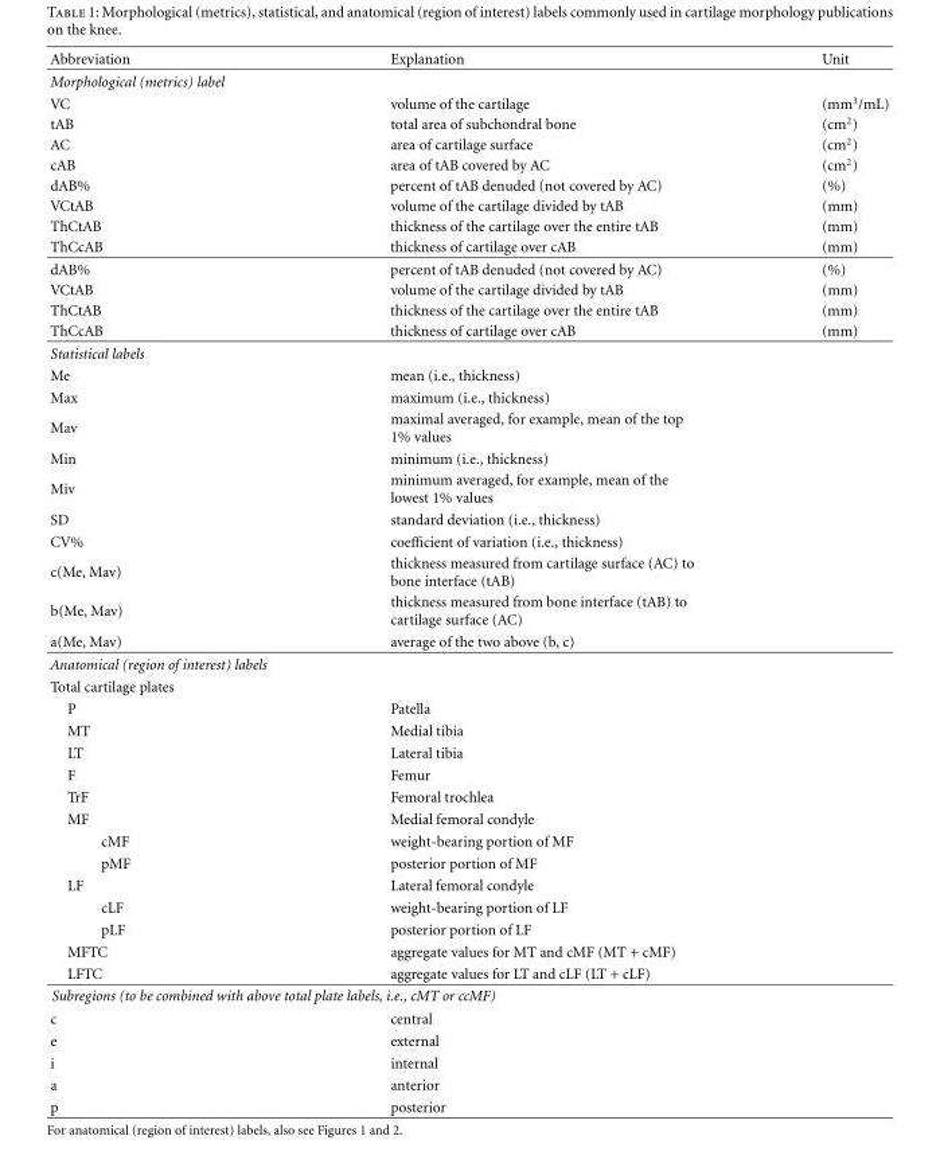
<table><thead><tr><td>Abbreviation</td><td>Explanation</td><td>Unit</td></tr></thead><tbody><tr><td colspan="3">Morphological (metrics) label</td></tr><tr><td>VC</td><td>volume of the cartilage</td><td>(mm<sup>3</sup>/mL)</td></tr><tr><td>tAB</td><td>total area of subchondral bone</td><td>(cm<sup>2</sup>)</td></tr><tr><td>AC</td><td>area of cartilage surface</td><td>(cm<sup>2</sup>)</td></tr><tr><td>cAB</td><td>area of tAB covered by AC</td><td>(cm<sup>2</sup>)</td></tr><tr><td>dAB%</td><td>percent of tAB denuded (not covered by AC)</td><td>(%)</td></tr><tr><td>VCtAB</td><td>volume of the cartilage divided by tAB</td><td>(mm)</td></tr><tr><td>ThCtAB</td><td>thickness of the cartilage over the entire tAB</td><td>(mm)</td></tr><tr><td>ThCcAB</td><td>thickness of cartilage over cAB</td><td>(mm)</td></tr><tr><td>dAB%</td><td>percent of tAB denuded (not covered by AC)</td><td>(%)</td></tr><tr><td>VCtAB</td><td>volume of the cartilage divided by tAB</td><td>(mm)</td></tr><tr><td>ThCtAB</td><td>thickness of the cartilage over the entire tAB</td><td>(mm)</td></tr><tr><td>ThCcAB</td><td>thickness of cartilage over cAB</td><td>(mm)</td></tr><tr><td colspan="3">Statistical labels</td></tr><tr><td>Me</td><td>mean (i.e., thickness)</td><td></td></tr><tr><td>Max</td><td>maximum (i.e., thickness)</td><td></td></tr><tr><td>Mav</td><td>maximal averaged, for example, mean of the top 1% values</td><td></td></tr><tr><td>Min</td><td>minimum (i.e., thickness)</td><td></td></tr><tr><td>Miv</td><td>minimum averaged, for example, mean of the lowest 1% values</td><td></td></tr><tr><td>SD</td><td>standard deviation (i.e., thickness)</td><td></td></tr><tr><td>CV%</td><td>coefficient of variation (i.e., thickness)</td><td></td></tr><tr><td>c(Me, Mav)</td><td>thickness measured from cartilage surface (AC) to bone interface (tAB)</td><td></td></tr><tr><td>b(Me, Mav)</td><td>thickness measured from bone interface (tAB) to cartilage surface (AC)</td><td></td></tr><tr><td>a(Me, Mav)</td><td>average of the two above (b, c)</td><td></td></tr><tr><td colspan="3">Anatomical (region of interest) labels</td></tr><tr><td colspan="3">Total cartilage plates</td></tr><tr><td>P</td><td>Patella</td><td></td></tr><tr><td>MT</td><td>Medial tibia</td><td></td></tr><tr><td>LT</td><td>Lateral tibia</td><td></td></tr><tr><td>F</td><td>Femur</td><td></td></tr><tr><td>TrF</td><td>Femoral trochlea</td><td></td></tr><tr><td>MF</td><td>Medial femoral condyle</td><td></td></tr><tr><td>cMF</td><td>weight-bearing portion of MF</td><td></td></tr><tr><td>pMF</td><td>posterior portion of MF</td><td></td></tr><tr><td>LF</td><td>Lateral femoral condyle</td><td></td></tr><tr><td>cLF</td><td>weight-bearing portion of LF</td><td></td></tr><tr><td>pLF</td><td>posterior portion of LF</td><td></td></tr><tr><td>MFTC</td><td>aggregate values for MT and cMF (MT + cMF)</td><td></td></tr><tr><td>LFTC</td><td>aggregate values for LT and cLF (LT + cLF)</td><td></td></tr><tr><td colspan="3">Subregions (to be combined with above total plate labels, i.e., cMT or ccMF)</td></tr><tr><td>c</td><td>central</td><td></td></tr><tr><td>e</td><td>external</td><td></td></tr><tr><td>i</td><td>internal</td><td></td></tr><tr><td>a</td><td>anterior</td><td></td></tr><tr><td>p</td><td>posterior</td><td></td></tr></tbody></table>